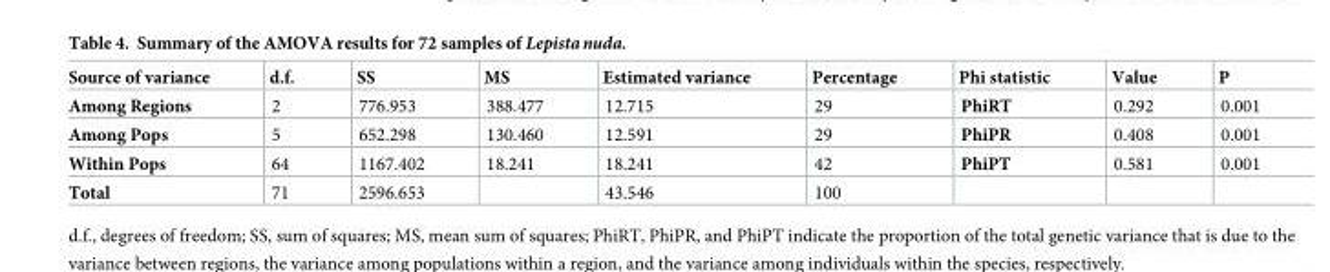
<table><thead><tr><td>Source of variance</td><td>d.f.</td><td>SS</td><td>MS</td><td>Estimated variance</td><td>Percentage</td><td>Phi statistic</td><td>Value</td><td>P</td></tr></thead><tbody><tr><td>Among Regions</td><td>2</td><td>776.953</td><td>388.477</td><td>12.715</td><td>29</td><td>PhiRT</td><td>0.292</td><td>0.001</td></tr><tr><td>Among Pops</td><td>5</td><td>652.298</td><td>130.460</td><td>12.591</td><td>29</td><td>PhiPR</td><td>0.408</td><td>0.001</td></tr><tr><td>Within Pops</td><td>64</td><td>1167.402</td><td>18.241</td><td>18.241</td><td>42</td><td>PhiPT</td><td>0.581</td><td>0.001</td></tr><tr><td>Total</td><td>71</td><td>2596.653</td><td></td><td>43.546</td><td>100</td><td></td><td></td><td></td></tr></tbody></table>